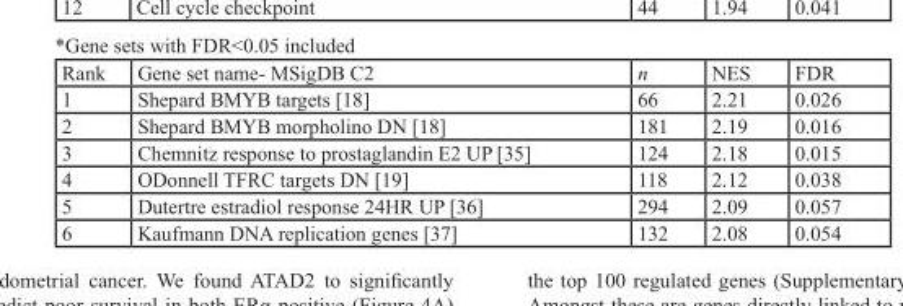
<table><thead><tr><td>Rank</td><td>Gene set name- MSigDB C2</td><td>n</td><td>NES</td><td>FDR</td></tr></thead><tbody><tr><td>1</td><td>Shepard BMYB targets [18]</td><td>66</td><td>2.21</td><td>0.026</td></tr><tr><td>2</td><td>Shepard BMYB morpholino DN [18]</td><td>181</td><td>2.19</td><td>0.016</td></tr><tr><td>3</td><td>Chemnitz response to prostaglandin E2 UP [35]</td><td>124</td><td>2.18</td><td>0.015</td></tr><tr><td>4</td><td>ODonnell TFRC targets DN [19]</td><td>118</td><td>2.12</td><td>0.038</td></tr><tr><td>5</td><td>Dutertre estradiol response 24HR UP [36]</td><td>294</td><td>2.09</td><td>0.057</td></tr><tr><td>6</td><td>Kaufmann DNA replication genes [37]</td><td>132</td><td>2.08</td><td>0.054</td></tr></tbody></table>